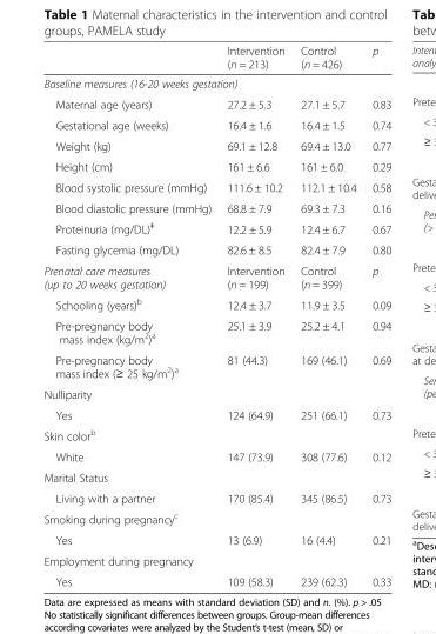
<table><thead><tr><td></td><td>Intervention (n = 213)</td><td>Control (n = 426)</td><td>p</td></tr></thead><tbody><tr><td colspan="4">Baseline measures (16-20 weeks gestation)</td></tr><tr><td>Maternal age (years)</td><td>27.2 ± 5.3</td><td>27.1 ± 5.7</td><td>0.83</td></tr><tr><td>Gestational age (weeks)</td><td>16.4 ± 1.6</td><td>16.4 ± 1.5</td><td>0.74</td></tr><tr><td>Weight (kg)</td><td>69.1 ± 12.8</td><td>69.4 ± 13.0</td><td>0.77</td></tr><tr><td>Height (cm)</td><td>161 ± 6.6</td><td>161 ± 6.0</td><td>0.29</td></tr><tr><td>Blood systolic pressure (mmHg)</td><td>111.6 ± 10.2</td><td>112.1 ± 10.4</td><td>0.58</td></tr><tr><td>Blood diastolic pressure (mmHg)</td><td>68.8 ± 7.9</td><td>69.3 ± 7.3</td><td>0.16</td></tr><tr><td>Proteinuria (mg/DL)<sup>ǂ</sup></td><td>12.2 ± 5.9</td><td>12.4 ± 6.7</td><td>0.67</td></tr><tr><td>Fasting glycemia (mg/DL)</td><td>82.6 ± 8.5</td><td>82.4 ± 7.9</td><td>0.80</td></tr><tr><td>Prenatal care measures (up to 20 weeks gestation)</td><td>Intervention (n = 199)</td><td>Control (n = 399)</td><td>p</td></tr><tr><td>Schooling (years)<sup>b</sup></td><td>12.4 ± 3.7</td><td>11.9 ± 3.5</td><td>0.09</td></tr><tr><td>Pre-pregnancy body mass index (kg/m<sup>2</sup>)<sup>a</sup></td><td>25.1 ± 3.9</td><td>25.2 ± 4.1</td><td>0.94</td></tr><tr><td>Pre-pregnancy body mass index (≥ 25 kg/m<sup>2</sup>)<sup>a</sup></td><td>81 (44.3)</td><td>169 (46.1)</td><td>0.69</td></tr><tr><td colspan="4">Nulliparity</td></tr><tr><td>Yes</td><td>124 (64.9)</td><td>251 (66.1)</td><td>0.73</td></tr><tr><td colspan="4">Skin color<sup>b</sup></td></tr><tr><td>White</td><td>147 (73.9)</td><td>308 (77.6)</td><td>0.12</td></tr><tr><td colspan="4">Marital Status</td></tr><tr><td>Living with a partner</td><td>170 (85.4)</td><td>345 (86.5)</td><td>0.73</td></tr><tr><td colspan="4">Smoking during pregnancy<sup>c</sup></td></tr><tr><td>Yes</td><td>13 (6.9)</td><td>16 (4.4)</td><td>0.21</td></tr><tr><td colspan="4">Employment during pregnancy</td></tr><tr><td>Yes</td><td>109 (58.3)</td><td>239 (62.3)</td><td>0.33</td></tr></tbody></table>